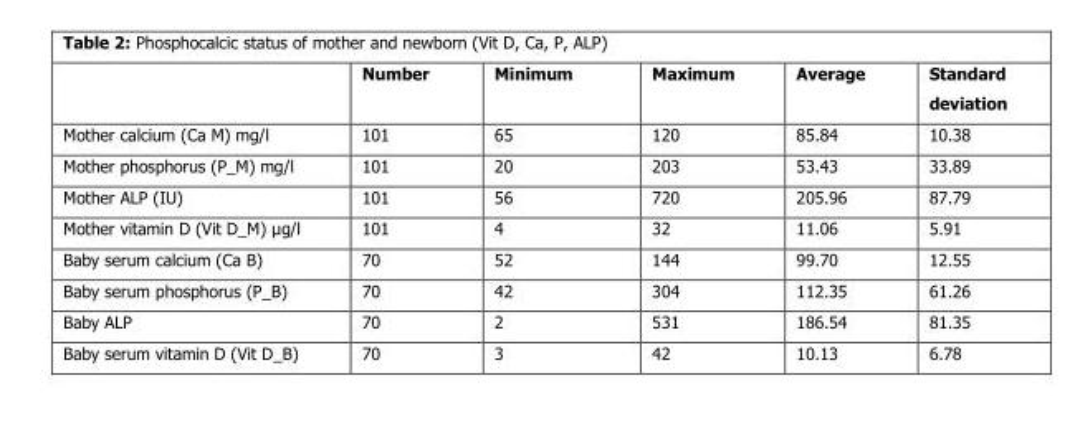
<table><thead><tr><td></td><td>Number</td><td>Minimum</td><td>Maximum</td><td>Average</td><td>Standard deviation</td></tr></thead><tbody><tr><td>Mother calcium (Ca M) mg/l</td><td>101</td><td>65</td><td>120</td><td>85.84</td><td>10.38</td></tr><tr><td>Mother phosphorus (P_M) mg/l</td><td>101</td><td>20</td><td>203</td><td>53.43</td><td>33.89</td></tr><tr><td>Mother ALP (IU)</td><td>101</td><td>56</td><td>720</td><td>205.96</td><td>87.79</td></tr><tr><td>Mother vitamin D (Vit D_M) µg/l</td><td>101</td><td>4</td><td>32</td><td>11.06</td><td>5.91</td></tr><tr><td>Baby serum calcium (Ca B)</td><td>70</td><td>52</td><td>144</td><td>99.70</td><td>12.55</td></tr><tr><td>Baby serum phosphorus (P_B)</td><td>70</td><td>42</td><td>304</td><td>112.35</td><td>61.26</td></tr><tr><td>Baby ALP</td><td>70</td><td>2</td><td>531</td><td>186.54</td><td>81.35</td></tr><tr><td>Baby serum vitamin D (Vit D_B)</td><td>70</td><td>3</td><td>42</td><td>10.13</td><td>6.78</td></tr></tbody></table>